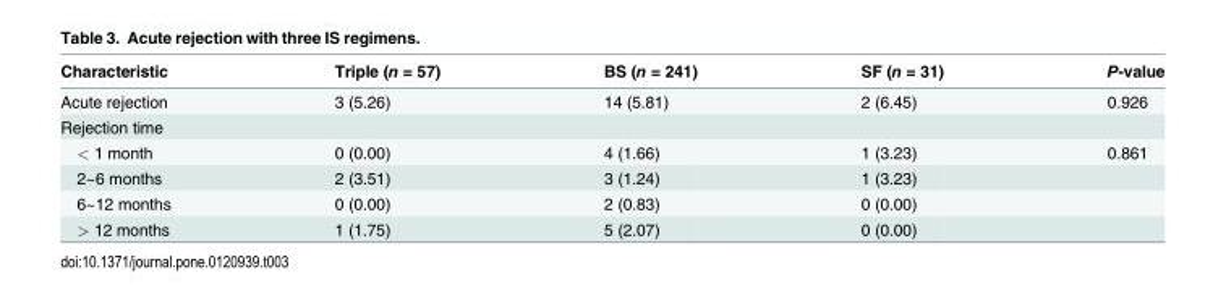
<table><thead><tr><td>Characteristic</td><td>Triple (n = 57)</td><td>BS (n = 241)</td><td>SF (n = 31)</td><td>P-value</td></tr></thead><tbody><tr><td>Acute rejection</td><td>3 (5.26)</td><td>14 (5.81)</td><td>2 (6.45)</td><td>0.926</td></tr><tr><td colspan="5">Rejection time</td></tr><tr><td>&lt; 1 month</td><td>0 (0.00)</td><td>4 (1.66)</td><td>1 (3.23)</td><td>0.861</td></tr><tr><td>2~6 months</td><td>2 (3.51)</td><td>3 (1.24)</td><td>1 (3.23)</td><td></td></tr><tr><td>6~12 months</td><td>0 (0.00)</td><td>2 (0.83)</td><td>0 (0.00)</td><td></td></tr><tr><td>&gt; 12 months</td><td>1 (1.75)</td><td>5 (2.07)</td><td>0 (0.00)</td><td></td></tr></tbody></table>